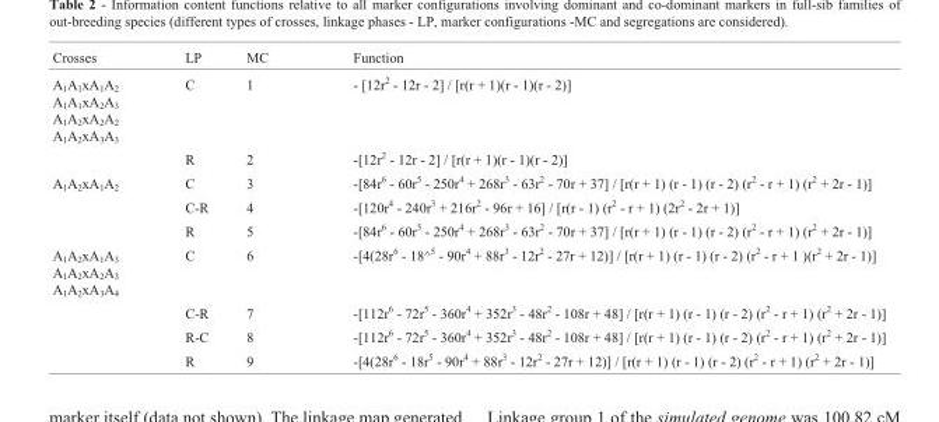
<table><thead><tr><td>Crosses</td><td>LP</td><td>MC</td><td>Function</td></tr></thead><tbody><tr><td rowspan="2">A<sub>1</sub>A<sub>1</sub>xA<sub>1</sub>A<sub>2</sub> A<sub>1</sub>A<sub>1</sub>xA<sub>2</sub>A<sub>3</sub> A<sub>1</sub>A<sub>2</sub>xA<sub>2</sub>A<sub>2</sub> A<sub>1</sub>A<sub>2</sub>xA<sub>3</sub>A<sub>3</sub></td><td>C</td><td>1</td><td>- [12r<sup>2</sup> - 12r - 2] / [r(r + 1)(r - 1)(r - 2)]</td></tr><tr><td>R</td><td>2</td><td>-[12r<sup>2</sup> - 12r - 2] / [r(r + 1)(r - 1)(r - 2)]</td></tr><tr><td rowspan="3">A<sub>1</sub>A<sub>2</sub>xA<sub>1</sub>A<sub>2</sub></td><td>C</td><td>3</td><td>-[84r<sup>6</sup> - 60r<sup>5</sup> - 250r<sup>4</sup> + 268r<sup>3</sup> - 63r<sup>2</sup> - 70r + 37] / [r(r + 1) (r - 1) (r - 2) (r<sup>2</sup> - r + 1) (r<sup>2</sup> + 2r - 1)]</td></tr><tr><td>C-R</td><td>4</td><td>-[120r<sup>4</sup> - 240r<sup>3</sup> + 216r<sup>2</sup> - 96r + 16] / [r(r - 1) (r<sup>2</sup> - r + 1) (2r<sup>2</sup> - 2r + 1)]</td></tr><tr><td>R</td><td>5</td><td>-[84r<sup>6</sup> - 60r<sup>5</sup> - 250r<sup>4</sup> + 268r<sup>3</sup> - 63r<sup>2</sup> - 70r + 37] / [r(r + 1) (r - 1) (r - 2) (r<sup>2</sup> - r + 1) (r<sup>2</sup> + 2r - 1)]</td></tr><tr><td rowspan="4">A<sub>1</sub>A<sub>2</sub>xA<sub>1</sub>A<sub>3</sub> A<sub>1</sub>A<sub>2</sub>xA<sub>2</sub>A<sub>3</sub> A<sub>1</sub>A<sub>2</sub>xA<sub>3</sub>A<sub>4</sub></td><td>C</td><td>6</td><td>-[4(28r6 - 18^5 - 90r4 + 88r3 - 12r2 - 27r + 12)] / [r(r + 1) (r - 1) (r - 2) (r2 - r + 1 )(r2 + 2r - 1)]</td></tr><tr><td>C-R</td><td>7</td><td>-[112r<sup>6</sup> - 72r<sup>5</sup> - 360r<sup>4</sup> + 352r<sup>3</sup> - 48r<sup>2</sup> - 108r + 48] / [r(r + 1) (r - 1) (r - 2) (r<sup>2</sup> - r + 1) (r<sup>2</sup> + 2r - 1)]</td></tr><tr><td>R-C</td><td>8</td><td>-[112r<sup>6</sup> - 72r<sup>5</sup> - 360r<sup>4</sup> + 352r<sup>3</sup> - 48r<sup>2</sup> - 108r + 48] / [r(r + 1) (r - 1) (r - 2) (r<sup>2</sup> - r + 1) (r<sup>2</sup> + 2r - 1)]</td></tr><tr><td>R</td><td>9</td><td>-[4(28r<sup>6</sup> - 18r<sup>5</sup> - 90r<sup>4</sup> + 88r<sup>3</sup> - 12r<sup>2</sup> - 27r + 12)] / [r(r + 1) (r - 1) (r - 2) (r<sup>2</sup> - r + 1) (r<sup>2</sup> + 2r - 1)]</td></tr></tbody></table>